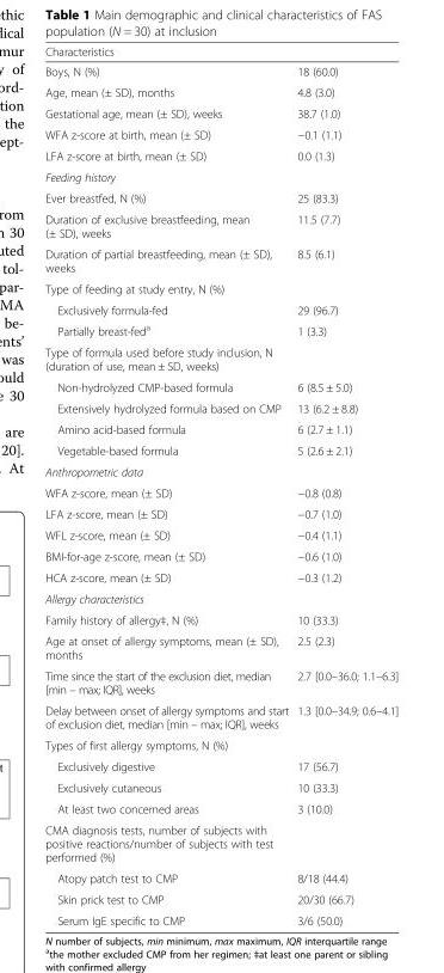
<table><thead><tr><td>Characteristics</td><td></td></tr></thead><tbody><tr><td>Boys, N (%)</td><td>18 (60.0)</td></tr><tr><td>Age, mean (± SD), months</td><td>4.8 (3.0)</td></tr><tr><td>Gestational age, mean (± SD), weeks</td><td>38.7 (1.0)</td></tr><tr><td>WFA z-score at birth, mean (± SD)</td><td>−0.1 (1.1)</td></tr><tr><td>LFA z-score at birth, mean (± SD)</td><td>0.0 (1.3)</td></tr><tr><td colspan="2">Feeding history</td></tr><tr><td>Ever breastfed, N (%)</td><td>25 (83.3)</td></tr><tr><td>Duration of exclusive breastfeeding, mean (± SD), weeks</td><td>11.5 (7.7)</td></tr><tr><td>Duration of partial breastfeeding, mean (± SD), weeks</td><td>8.5 (6.1)</td></tr><tr><td colspan="2">Type of feeding at study entry, N (%)</td></tr><tr><td>Exclusively formula-fed</td><td>29 (96.7)</td></tr><tr><td>Partially breast-fed<sup>a</sup></td><td>1 (3.3)</td></tr><tr><td colspan="2">Type of formula used before study inclusion, N (duration of use, mean ± SD, weeks)</td></tr><tr><td>Non-hydrolyzed CMP-based formula</td><td>6 (8.5 ± 5.0)</td></tr><tr><td>Extensively hydrolyzed formula based on CMP</td><td>13 (6.2 ± 8.8)</td></tr><tr><td>Amino acid-based formula</td><td>6 (2.7 ± 1.1)</td></tr><tr><td>Vegetable-based formula</td><td>5 (2.6 ± 2.1)</td></tr><tr><td colspan="2">Anthropometric data</td></tr><tr><td>WFA z-score, mean (± SD)</td><td>−0.8 (0.8)</td></tr><tr><td>LFA z-score, mean (± SD)</td><td>−0.7 (1.0)</td></tr><tr><td>WFL z-score, mean (± SD)</td><td>−0.4 (1.1)</td></tr><tr><td>BMI-for-age z-score, mean (± SD)</td><td>−0.6 (1.0)</td></tr><tr><td>HCA z-score, mean (± SD)</td><td>−0.3 (1.2)</td></tr><tr><td colspan="2">Allergy characteristics</td></tr><tr><td>Family history of allergy‡, N (%)</td><td>10 (33.3)</td></tr><tr><td>Age at onset of allergy symptoms, mean (± SD), months</td><td>2.5 (2.3)</td></tr><tr><td>Time since the start of the exclusion diet, median [min – max; IQR], weeks</td><td>2.7 [0.0–36.0; 1.1–6.3]</td></tr><tr><td>Delay between onset of allergy symptoms and start of exclusion diet, median [min – max; IQR], weeks</td><td>1.3 [0.0–34.9; 0.6–4.1]</td></tr><tr><td colspan="2">Types of first allergy symptoms, N (%)</td></tr><tr><td>Exclusively digestive</td><td>17 (56.7)</td></tr><tr><td>Exclusively cutaneous</td><td>10 (33.3)</td></tr><tr><td>At least two concerned areas</td><td>3 (10.0)</td></tr><tr><td colspan="2">CMA diagnosis tests, number of subjects with positive reactions/number of subjects with test performed (%)</td></tr><tr><td>Atopy patch test to CMP</td><td>8/18 (44.4)</td></tr><tr><td>Skin prick test to CMP</td><td>20/30 (66.7)</td></tr><tr><td>Serum IgE specific to CMP</td><td>3/6 (50.0)</td></tr></tbody></table>